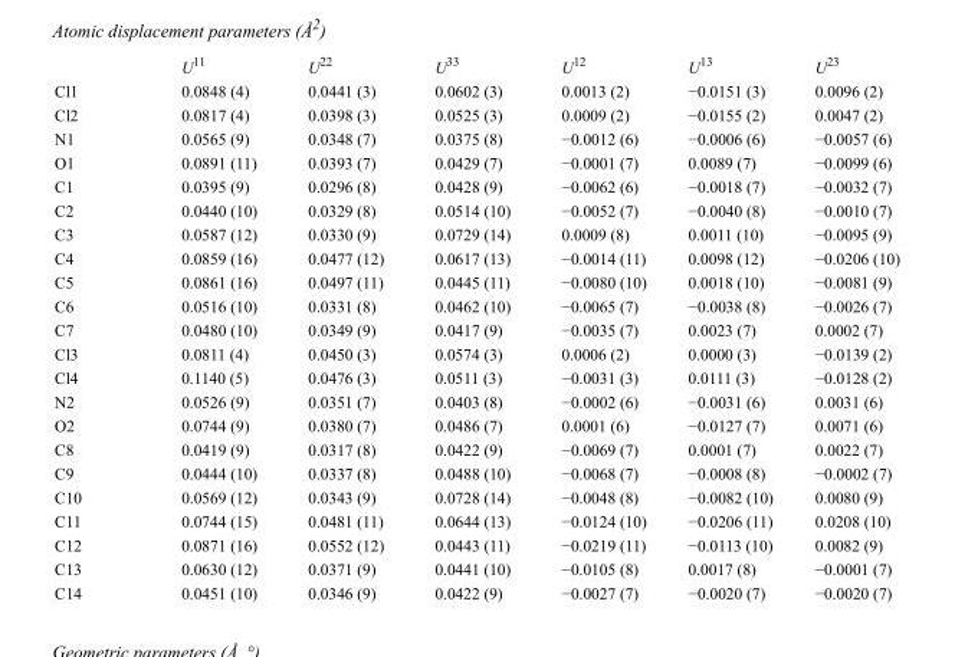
<table><thead><tr><td></td><td>U<sup>11</sup></td><td>U<sup>22</sup></td><td>U<sup>33</sup></td><td>U<sup>12</sup></td><td>U<sup>13</sup></td><td>U<sup>23</sup></td></tr></thead><tbody><tr><td>Cl1</td><td>0.0848 (4)</td><td>0.0441 (3)</td><td>0.0602 (3)</td><td>0.0013 (2)</td><td>−0.0151 (3)</td><td>0.0096 (2)</td></tr><tr><td>Cl2</td><td>0.0817 (4)</td><td>0.0398 (3)</td><td>0.0525 (3)</td><td>0.0009 (2)</td><td>−0.0155 (2)</td><td>0.0047 (2)</td></tr><tr><td>N1</td><td>0.0565 (9)</td><td>0.0348 (7)</td><td>0.0375 (8)</td><td>−0.0012 (6)</td><td>−0.0006 (6)</td><td>−0.0057 (6)</td></tr><tr><td>O1</td><td>0.0891 (11)</td><td>0.0393 (7)</td><td>0.0429 (7)</td><td>−0.0001 (7)</td><td>0.0089 (7)</td><td>−0.0099 (6)</td></tr><tr><td>C1</td><td>0.0395 (9)</td><td>0.0296 (8)</td><td>0.0428 (9)</td><td>−0.0062 (6)</td><td>−0.0018 (7)</td><td>−0.0032 (7)</td></tr><tr><td>C2</td><td>0.0440 (10)</td><td>0.0329 (8)</td><td>0.0514 (10)</td><td>−0.0052 (7)</td><td>−0.0040 (8)</td><td>−0.0010 (7)</td></tr><tr><td>C3</td><td>0.0587 (12)</td><td>0.0330 (9)</td><td>0.0729 (14)</td><td>0.0009 (8)</td><td>0.0011 (10)</td><td>−0.0095 (9)</td></tr><tr><td>C4</td><td>0.0859 (16)</td><td>0.0477 (12)</td><td>0.0617 (13)</td><td>−0.0014 (11)</td><td>0.0098 (12)</td><td>−0.0206 (10)</td></tr><tr><td>C5</td><td>0.0861 (16)</td><td>0.0497 (11)</td><td>0.0445 (11)</td><td>−0.0080 (10)</td><td>0.0018 (10)</td><td>−0.0081 (9)</td></tr><tr><td>C6</td><td>0.0516 (10)</td><td>0.0331 (8)</td><td>0.0462 (10)</td><td>−0.0065 (7)</td><td>−0.0038 (8)</td><td>−0.0026 (7)</td></tr><tr><td>C7</td><td>0.0480 (10)</td><td>0.0349 (9)</td><td>0.0417 (9)</td><td>−0.0035 (7)</td><td>0.0023 (7)</td><td>0.0002 (7)</td></tr><tr><td>Cl3</td><td>0.0811 (4)</td><td>0.0450 (3)</td><td>0.0574 (3)</td><td>0.0006 (2)</td><td>0.0000 (3)</td><td>−0.0139 (2)</td></tr><tr><td>Cl4</td><td>0.1140 (5)</td><td>0.0476 (3)</td><td>0.0511 (3)</td><td>−0.0031 (3)</td><td>0.0111 (3)</td><td>−0.0128 (2)</td></tr><tr><td>N2</td><td>0.0526 (9)</td><td>0.0351 (7)</td><td>0.0403 (8)</td><td>−0.0002 (6)</td><td>−0.0031 (6)</td><td>0.0031 (6)</td></tr><tr><td>O2</td><td>0.0744 (9)</td><td>0.0380 (7)</td><td>0.0486 (7)</td><td>0.0001 (6)</td><td>−0.0127 (7)</td><td>0.0071 (6)</td></tr><tr><td>C8</td><td>0.0419 (9)</td><td>0.0317 (8)</td><td>0.0422 (9)</td><td>−0.0069 (7)</td><td>0.0001 (7)</td><td>0.0022 (7)</td></tr><tr><td>C9</td><td>0.0444 (10)</td><td>0.0337 (8)</td><td>0.0488 (10)</td><td>−0.0068 (7)</td><td>−0.0008 (8)</td><td>−0.0002 (7)</td></tr><tr><td>C10</td><td>0.0569 (12)</td><td>0.0343 (9)</td><td>0.0728 (14)</td><td>−0.0048 (8)</td><td>−0.0082 (10)</td><td>0.0080 (9)</td></tr><tr><td>C11</td><td>0.0744 (15)</td><td>0.0481 (11)</td><td>0.0644 (13)</td><td>−0.0124 (10)</td><td>−0.0206 (11)</td><td>0.0208 (10)</td></tr><tr><td>C12</td><td>0.0871 (16)</td><td>0.0552 (12)</td><td>0.0443 (11)</td><td>−0.0219 (11)</td><td>−0.0113 (10)</td><td>0.0082 (9)</td></tr><tr><td>C13</td><td>0.0630 (12)</td><td>0.0371 (9)</td><td>0.0441 (10)</td><td>−0.0105 (8)</td><td>0.0017 (8)</td><td>−0.0001 (7)</td></tr><tr><td>C14</td><td>0.0451 (10)</td><td>0.0346 (9)</td><td>0.0422 (9)</td><td>−0.0027 (7)</td><td>−0.0020 (7)</td><td>−0.0020 (7)</td></tr></tbody></table>